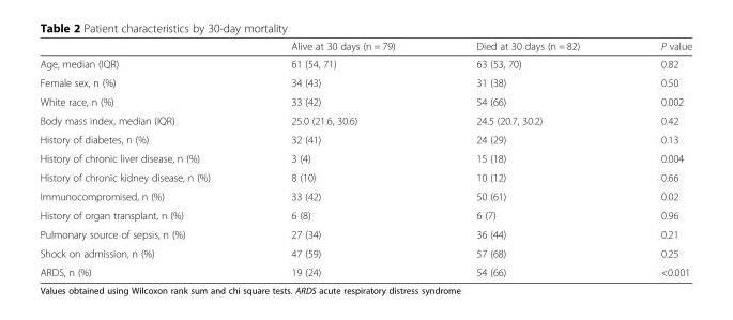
<table><thead><tr><td></td><td>Alive at 30 days (n = 79)</td><td>Died at 30 days (n = 82)</td><td>P value</td></tr></thead><tbody><tr><td>Age, median (IQR)</td><td>61 (54, 71)</td><td>63 (53, 70)</td><td>0.82</td></tr><tr><td>Female sex, n (%)</td><td>34 (43)</td><td>31 (38)</td><td>0.50</td></tr><tr><td>White race, n (%)</td><td>33 (42)</td><td>54 (66)</td><td>0.002</td></tr><tr><td>Body mass index, median (IQR)</td><td>25.0 (21.6, 30.6)</td><td>24.5 (20.7, 30.2)</td><td>0.42</td></tr><tr><td>History of diabetes, n (%)</td><td>32 (41)</td><td>24 (29)</td><td>0.13</td></tr><tr><td>History of chronic liver disease, n (%)</td><td>3 (4)</td><td>15 (18)</td><td>0.004</td></tr><tr><td>History of chronic kidney disease, n (%)</td><td>8 (10)</td><td>10 (12)</td><td>0.66</td></tr><tr><td>Immunocompromised, n (%)</td><td>33 (42)</td><td>50 (61)</td><td>0.02</td></tr><tr><td>History of organ transplant, n (%)</td><td>6 (8)</td><td>6 (7)</td><td>0.96</td></tr><tr><td>Pulmonary source of sepsis, n (%)</td><td>27 (34)</td><td>36 (44)</td><td>0.21</td></tr><tr><td>Shock on admission, n (%)</td><td>47 (59)</td><td>57 (68)</td><td>0.25</td></tr><tr><td>ARDS, n (%)</td><td>19 (24)</td><td>54 (66)</td><td>&lt;0.001</td></tr></tbody></table>